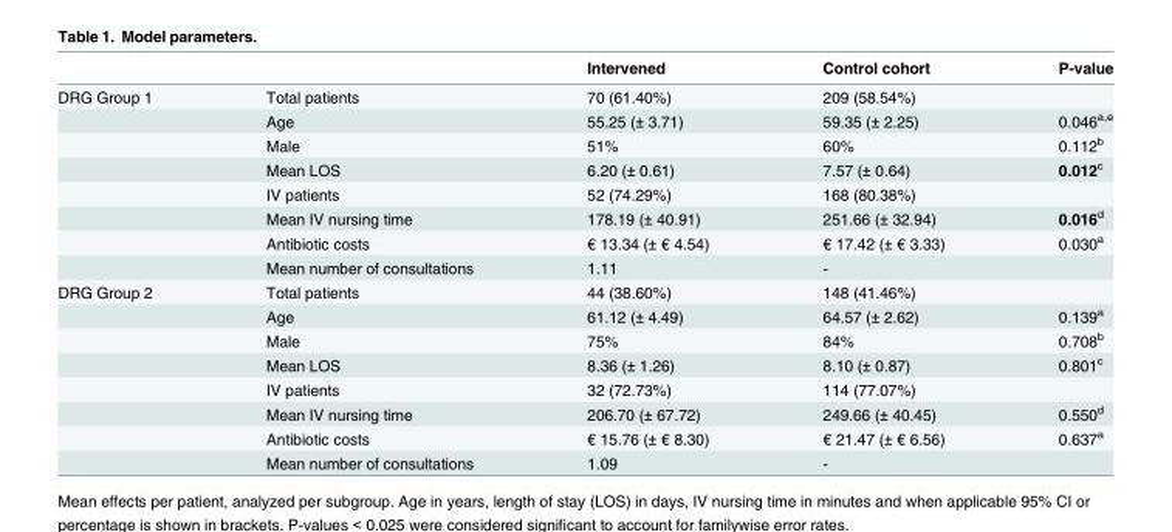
<table><thead><tr><td></td><td></td><td>Intervened</td><td>Control cohort</td><td>P-value</td></tr></thead><tbody><tr><td rowspan="8">DRG Group 1</td><td>Total patients</td><td>70 (61.40%)</td><td>209 (58.54%)</td><td></td></tr><tr><td>Age</td><td>55.25 (± 3.71)</td><td>59.35 (± 2.25)</td><td>0.046<sup>a,e</sup></td></tr><tr><td>Male</td><td>51%</td><td>60%</td><td>0.112<sup>b</sup></td></tr><tr><td>Mean LOS</td><td>6.20 (± 0.61)</td><td>7.57 (± 0.64)</td><td>0.012<sup>c</sup></td></tr><tr><td>IV patients</td><td>52 (74.29%)</td><td>168 (80.38%)</td><td></td></tr><tr><td>Mean IV nursing time</td><td>178.19 (± 40.91)</td><td>251.66 (± 32.94)</td><td>0.016<sup>d</sup></td></tr><tr><td>Antibiotic costs</td><td>€ 13.34 (± € 4.54)</td><td>€ 17.42 (± € 3.33)</td><td>0.030<sup>a</sup></td></tr><tr><td>Mean number of consultations</td><td>1.11</td><td>-</td><td></td></tr><tr><td rowspan="8">DRG Group 2</td><td>Total patients</td><td>44 (38.60%)</td><td>148 (41.46%)</td><td></td></tr><tr><td>Age</td><td>61.12 (± 4.49)</td><td>64.57 (± 2.62)</td><td>0.139<sup>a</sup></td></tr><tr><td>Male</td><td>75%</td><td>84%</td><td>0.708<sup>b</sup></td></tr><tr><td>Mean LOS</td><td>8.36 (± 1.26)</td><td>8.10 (± 0.87)</td><td>0.801<sup>c</sup></td></tr><tr><td>IV patients</td><td>32 (72.73%)</td><td>114 (77.07%)</td><td></td></tr><tr><td>Mean IV nursing time</td><td>206.70 (± 67.72)</td><td>249.66 (± 40.45)</td><td>0.550<sup>d</sup></td></tr><tr><td>Antibiotic costs</td><td>€ 15.76 (± € 8.30)</td><td>€ 21.47 (± € 6.56)</td><td>0.637<sup>a</sup></td></tr><tr><td>Mean number of consultations</td><td>1.09</td><td>-</td><td></td></tr></tbody></table>